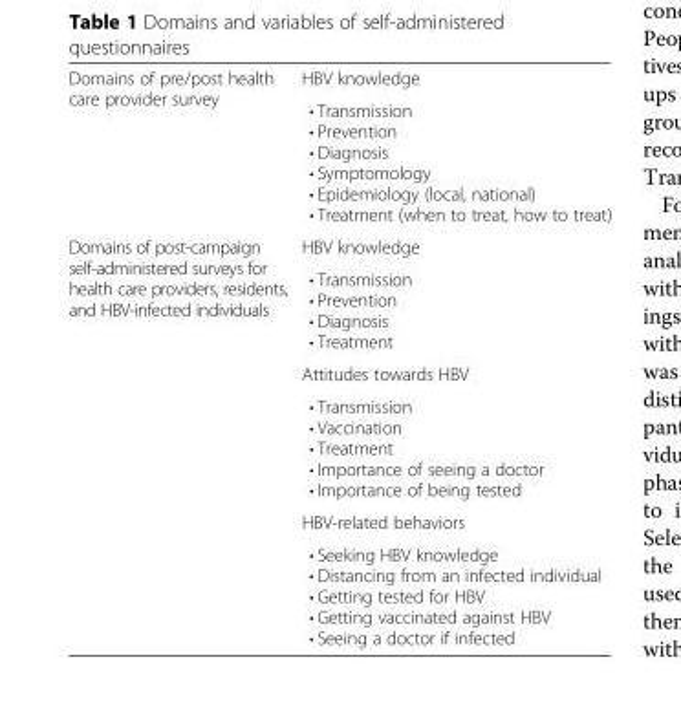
<table><tbody><tr><td rowspan="2">Domains of pre/post health care provider survey</td><td>HBV knowledge</td></tr><tr><td>• Transmission • Prevention • Diagnosis • Symptomology • Epidemiology (local, national) • Treatment (when to treat, how to treat)</td></tr><tr><td rowspan="6">Domains of post-campaign self-administered surveys for health care providers, residents, and HBV-infected individuals</td><td>HBV knowledge</td></tr><tr><td>• Transmission • Prevention • Diagnosis • Treatment</td></tr><tr><td>Attitudes towards HBV</td></tr><tr><td>• Transmission • Vaccination • Treatment • Importance of seeing a doctor • Importance of being tested</td></tr><tr><td>HBV-related behaviors</td></tr><tr><td>• Seeking HBV knowledge • Distancing from an infected individual • Getting tested for HBV • Getting vaccinated against HBV • Seeing a doctor if infected</td></tr></tbody></table>